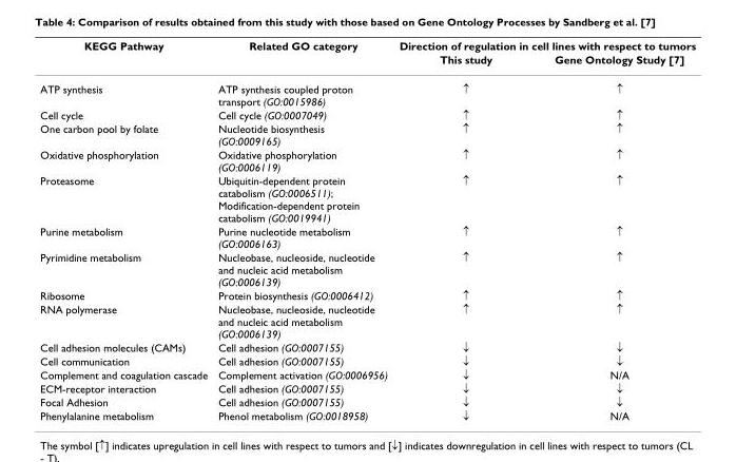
<table><thead><tr><td rowspan="2">KEGG Pathway</td><td rowspan="2">Related GO category</td><td colspan="2">Direction of regulation in cell lines with respect to tumors</td></tr><tr><td>This study</td><td>Gene Ontology Study [7]</td></tr></thead><tbody><tr><td>ATP synthesis</td><td>ATP synthesis coupled proton transport (GO:0015986)</td><td>↑</td><td>↑</td></tr><tr><td>Cell cycle</td><td>Cell cycle (GO:0007049)</td><td>↑</td><td>↑</td></tr><tr><td>One carbon pool by folate</td><td>Nucleotide biosynthesis (GO:0009165)</td><td>↑</td><td>↑</td></tr><tr><td>Oxidative phosphorylation</td><td>Oxidative phosphorylation (GO:0006119)</td><td>↑</td><td>↑</td></tr><tr><td>Proteasome</td><td>Ubiquitin-dependent protein catabolism (GO:0006511); Modification-dependent protein catabolism (GO:0019941)</td><td>↑</td><td>↑</td></tr><tr><td>Purine metabolism</td><td>Purine nucleotide metabolism (GO:0006163)</td><td>↑</td><td>↑</td></tr><tr><td>Pyrimidine metabolism</td><td>Nucleobase, nucleoside, nucleotide and nucleic acid metabolism (GO:0006139)</td><td>↑</td><td>↑</td></tr><tr><td>Ribosome</td><td>Protein biosynthesis (GO:0006412)</td><td>↑</td><td>↑</td></tr><tr><td>RNA polymerase</td><td>Nucleobase, nucleoside, nucleotide and nucleic acid metabolism (GO:0006139)</td><td>↑</td><td>↑</td></tr><tr><td>Cell adhesion molecules (CAMs)</td><td>Cell adhesion (GO:0007155)</td><td>↓</td><td>↓</td></tr><tr><td>Cell communication</td><td>Cell adhesion (GO:0007155)</td><td>↓</td><td>↓</td></tr><tr><td>Complement and coagulation cascade</td><td>Complement activation (GO:0006956)</td><td>↓</td><td>N/A</td></tr><tr><td>ECM-receptor interaction</td><td>Cell adhesion (GO:0007155)</td><td>↓</td><td>↓</td></tr><tr><td>Focal Adhesion</td><td>Cell adhesion (GO:0007155)</td><td>↓</td><td>↓</td></tr><tr><td>Phenylalanine metabolism</td><td>Phenol metabolism (GO:0018958)</td><td>↓</td><td>N/A</td></tr></tbody></table>